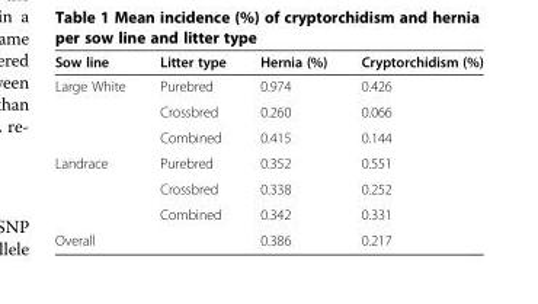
<table><thead><tr><td>Sow line</td><td>Litter type</td><td>Hernia (%)</td><td>Cryptorchidism (%)</td></tr></thead><tbody><tr><td rowspan="3">Large White</td><td>Purebred</td><td>0.974</td><td>0.426</td></tr><tr><td>Crossbred</td><td>0.260</td><td>0.066</td></tr><tr><td>Combined</td><td>0.415</td><td>0.144</td></tr><tr><td rowspan="3">Landrace</td><td>Purebred</td><td>0.352</td><td>0.551</td></tr><tr><td>Crossbred</td><td>0.338</td><td>0.252</td></tr><tr><td>Combined</td><td>0.342</td><td>0.331</td></tr><tr><td colspan="2">Overall</td><td>0.386</td><td>0.217</td></tr></tbody></table>